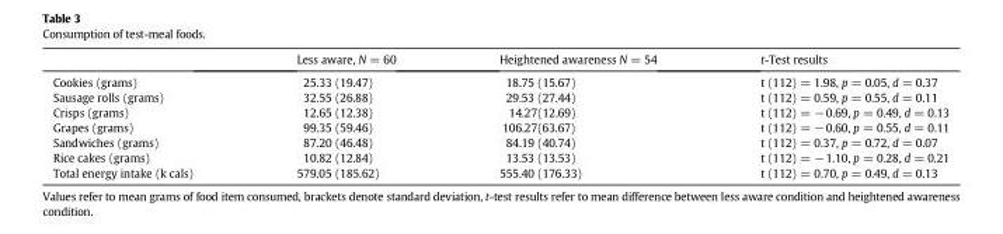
<table><thead><tr><td></td><td>Less aware, N = 60</td><td>Heightened awareness N = 54</td><td>t-Test results</td></tr></thead><tbody><tr><td>Cookies (grams)</td><td>25.33 (19.47)</td><td>18.75 (15.67)</td><td>t (112) = 1.98, p = 0.05, d = 0.37</td></tr><tr><td>Sausage rolls (grams)</td><td>32.55 (26.88)</td><td>29.53 (27.44)</td><td>t (112) = 0.59, p = 0.55, d = 0.11</td></tr><tr><td>Crisps (grams)</td><td>12.65 (12.38)</td><td>14.27(12.69)</td><td>t (112) = −0.69, p = 0.49, d = 0.13</td></tr><tr><td>Grapes (grams)</td><td>99.35 (59.46)</td><td>106.27(63.67)</td><td>t (112) = −0.60, p = 0.55, d = 0.11</td></tr><tr><td>Sandwiches (grams)</td><td>87.20 (46.48)</td><td>84.19 (40.74)</td><td>t (112) = 0.37, p = 0.72, d = 0.07</td></tr><tr><td>Rice cakes (grams)</td><td>10.82 (12.84)</td><td>13.53 (13.53)</td><td>t (112) = −1.10, p = 0.28, d = 0.21</td></tr><tr><td>Total energy intake (k cals)</td><td>579.05 (185.62)</td><td>555.40 (176.33)</td><td>t (112) = 0.70, p = 0.49, d = 0.13</td></tr></tbody></table>